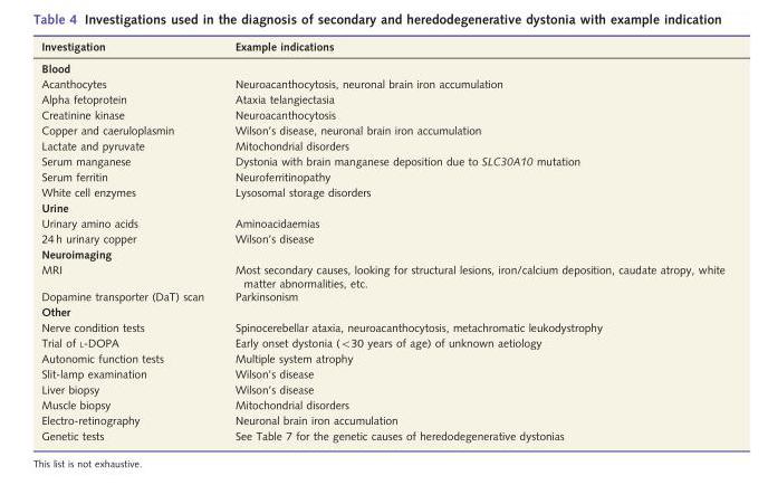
<table><thead><tr><td>Investigation</td><td>Example indications</td></tr></thead><tbody><tr><td colspan="2">Blood</td></tr><tr><td>Acanthocytes</td><td>Neuroacanthocytosis, neuronal brain iron accumulation</td></tr><tr><td>Alpha fetoprotein</td><td>Ataxia telangiectasia</td></tr><tr><td>Creatinine kinase</td><td>Neuroacanthocytosis</td></tr><tr><td>Copper and caeruloplasmin</td><td>Wilson’s disease, neuronal brain iron accumulation</td></tr><tr><td>Lactate and pyruvate</td><td>Mitochondrial disorders</td></tr><tr><td>Serum manganese</td><td>Dystonia with brain manganese deposition due to SLC30A10 mutation</td></tr><tr><td>Serum ferritin</td><td>Neuroferritinopathy</td></tr><tr><td>White cell enzymes</td><td>Lysosomal storage disorders</td></tr><tr><td colspan="2">Urine</td></tr><tr><td>Urinary amino acids</td><td>Aminoacidaemias</td></tr><tr><td>24 h urinary copper</td><td>Wilson’s disease</td></tr><tr><td colspan="2">Neuroimaging</td></tr><tr><td>MRI</td><td>Most secondary causes, looking for structural lesions, iron/calcium deposition, caudate atropy, white matter abnormalities, etc.</td></tr><tr><td>Dopamine transporter (DaT) scan</td><td>Parkinsonism</td></tr><tr><td colspan="2">Other</td></tr><tr><td>Nerve condition tests</td><td>Spinocerebellar ataxia, neuroacanthocytosis, metachromatic leukodystrophy</td></tr><tr><td>Trial of L-DOPA</td><td>Early onset dystonia (&lt;30 years of age) of unknown aetiology</td></tr><tr><td>Autonomic function tests</td><td>Multiple system atrophy</td></tr><tr><td>Slit-lamp examination</td><td>Wilson’s disease</td></tr><tr><td>Liver biopsy</td><td>Wilson’s disease</td></tr><tr><td>Muscle biopsy</td><td>Mitochondrial disorders</td></tr><tr><td>Electro-retinography</td><td>Neuronal brain iron accumulation</td></tr><tr><td>Genetic tests</td><td>See Table 7 for the genetic causes of heredodegenerative dystonias</td></tr></tbody></table>